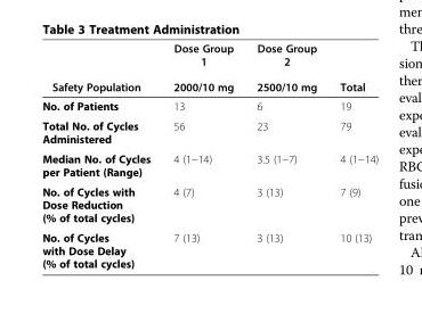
<table><thead><tr><td rowspan="2">Safety Population</td><td rowspan="2">Dose Group 1 2000/10 mg</td><td rowspan="2">Dose Group 2 2500/10 mg</td><td rowspan="2">Total</td></tr><tr></tr></thead><tbody><tr><td>No. of Patients</td><td>13</td><td>6</td><td>19</td></tr><tr><td>Total No. of Cycles Administered</td><td>56</td><td>23</td><td>79</td></tr><tr><td>Median No. of Cycles per Patient (Range)</td><td>4 (1−14)</td><td>3.5 (1−7)</td><td>4 (1−14)</td></tr><tr><td>No. of Cycles with Dose Reduction (% of total cycles)</td><td>4 (7)</td><td>3 (13)</td><td>7 (9)</td></tr><tr><td>No. of Cycles with Dose Delay (% of total cycles)</td><td>7 (13)</td><td>3 (13)</td><td>10 (13)</td></tr></tbody></table>